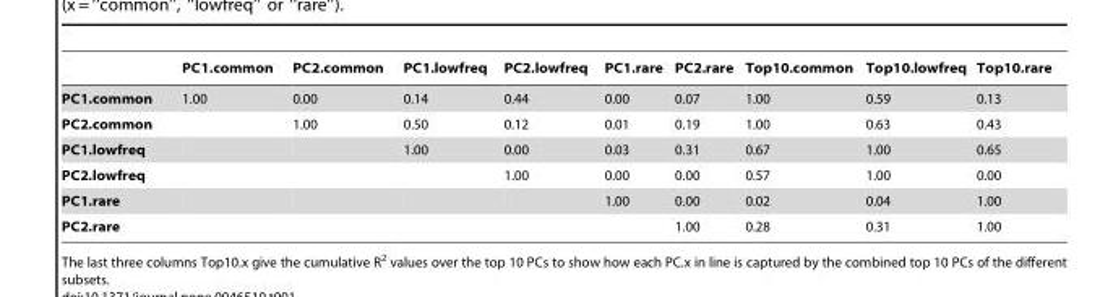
<table><thead><tr><td></td><td>PC1.common</td><td>PC2.common</td><td>PC1.lowfreq</td><td>PC2.lowfreq</td><td>PC1.rare</td><td>PC2.rare</td><td>Top10.common</td><td>Top10.lowfreq</td><td>Top10.rare</td></tr></thead><tbody><tr><td>PC1.common</td><td>1.00</td><td>0.00</td><td>0.14</td><td>0.44</td><td>0.00</td><td>0.07</td><td>1.00</td><td>0.59</td><td>0.13</td></tr><tr><td>PC2.common</td><td></td><td>1.00</td><td>0.50</td><td>0.12</td><td>0.01</td><td>0.19</td><td>1.00</td><td>0.63</td><td>0.43</td></tr><tr><td>PC1.lowfreq</td><td></td><td></td><td>1.00</td><td>0.00</td><td>0.03</td><td>0.31</td><td>0.67</td><td>1.00</td><td>0.65</td></tr><tr><td>PC2.lowfreq</td><td></td><td></td><td></td><td>1.00</td><td>0.00</td><td>0.00</td><td>0.57</td><td>1.00</td><td>0.00</td></tr><tr><td>PC1.rare</td><td></td><td></td><td></td><td></td><td>1.00</td><td>0.00</td><td>0.02</td><td>0.04</td><td>1.00</td></tr><tr><td>PC2.rare</td><td></td><td></td><td></td><td></td><td></td><td>1.00</td><td>0.28</td><td>0.31</td><td>1.00</td></tr></tbody></table>